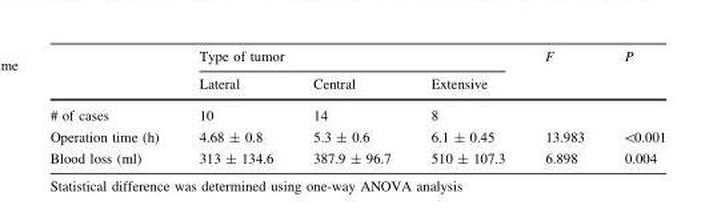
<table><thead><tr><td rowspan="2"></td><td colspan="3">Type of tumor</td><td rowspan="2">F</td><td rowspan="2">P</td></tr><tr><td>Lateral</td><td>Central</td><td>Extensive</td></tr></thead><tbody><tr><td># of cases</td><td>10</td><td>14</td><td>8</td><td></td><td></td></tr><tr><td>Operation time (h)</td><td>4.68 ± 0.8</td><td>5.3 ± 0.6</td><td>6.1 ± 0.45</td><td>13.983</td><td>&lt;0.001</td></tr><tr><td>Blood loss (ml)</td><td>313 ± 134.6</td><td>387.9 ± 96.7</td><td>510 ± 107.3</td><td>6.898</td><td>0.004</td></tr></tbody></table>